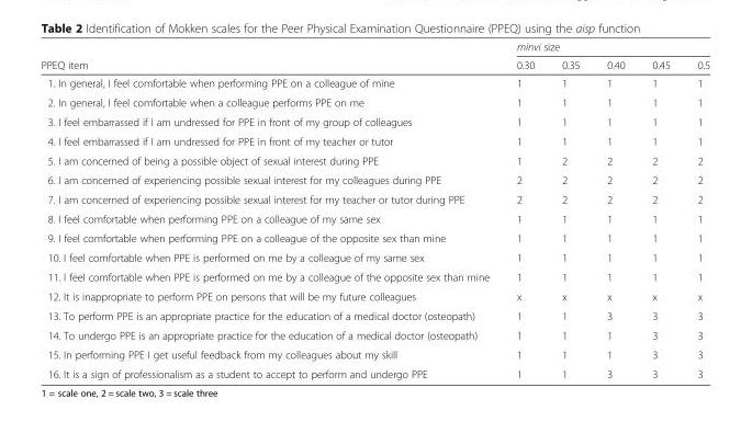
<table><thead><tr><td rowspan="2">PPEQ item</td><td colspan="5">minvi size</td></tr><tr><td>0.30</td><td>0.35</td><td>0.40</td><td>0.45</td><td>0.5</td></tr></thead><tbody><tr><td>1. In general, I feel comfortable when performing PPE on a colleague of mine</td><td>1</td><td>1</td><td>1</td><td>1</td><td>1</td></tr><tr><td>2. In general, I feel comfortable when a colleague performs PPE on me</td><td>1</td><td>1</td><td>1</td><td>1</td><td>1</td></tr><tr><td>3. I feel embarrassed if I am undressed for PPE in front of my group of colleagues</td><td>1</td><td>1</td><td>1</td><td>1</td><td>1</td></tr><tr><td>4. I feel embarrassed if I am undressed for PPE in front of my teacher or tutor</td><td>1</td><td>1</td><td>1</td><td>1</td><td>1</td></tr><tr><td>5. I am concerned of being a possible object of sexual interest during PPE</td><td>1</td><td>2</td><td>2</td><td>2</td><td>2</td></tr><tr><td>6. I am concerned of experiencing possible sexual interest for my colleagues during PPE</td><td>2</td><td>2</td><td>2</td><td>2</td><td>2</td></tr><tr><td>7. I am concerned of experiencing possible sexual interest for my teacher or tutor during PPE</td><td>2</td><td>2</td><td>2</td><td>2</td><td>2</td></tr><tr><td>8. I feel comfortable when performing PPE on a colleague of my same sex</td><td>1</td><td>1</td><td>1</td><td>1</td><td>1</td></tr><tr><td>9. I feel comfortable when performing PPE on a colleague of the opposite sex than mine</td><td>1</td><td>1</td><td>1</td><td>1</td><td>1</td></tr><tr><td>10. I feel comfortable when PPE is performed on me by a colleague of my same sex</td><td>1</td><td>1</td><td>1</td><td>1</td><td>1</td></tr><tr><td>11. I feel comfortable when PPE is performed on me by a colleague of the opposite sex than mine</td><td>1</td><td>1</td><td>1</td><td>1</td><td>1</td></tr><tr><td>12. It is inappropriate to perform PPE on persons that will be my future colleagues</td><td>x</td><td>x</td><td>x</td><td>x</td><td>x</td></tr><tr><td>13. To perform PPE is an appropriate practice for the education of a medical doctor (osteopath)</td><td>1</td><td>1</td><td>3</td><td>3</td><td>3</td></tr><tr><td>14. To undergo PPE is an appropriate practice for the education of a medical doctor (osteopath)</td><td>1</td><td>1</td><td>1</td><td>3</td><td>3</td></tr><tr><td>15. In performing PPE I get useful feedback from my colleagues about my skill</td><td>1</td><td>1</td><td>1</td><td>3</td><td>3</td></tr><tr><td>16. It is a sign of professionalism as a student to accept to perform and undergo PPE</td><td>1</td><td>1</td><td>3</td><td>3</td><td>3</td></tr></tbody></table>